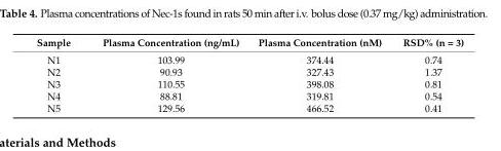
<table><thead><tr><td>Sample</td><td>Plasma Concentration (ng/mL)</td><td>Plasma Concentration (nM)</td><td>RSD% (n = 3)</td></tr></thead><tbody><tr><td>N1</td><td>103.99</td><td>374.44</td><td>0.74</td></tr><tr><td>N2</td><td>90.93</td><td>327.43</td><td>1.37</td></tr><tr><td>N3</td><td>110.55</td><td>398.08</td><td>0.81</td></tr><tr><td>N4</td><td>88.81</td><td>319.81</td><td>0.54</td></tr><tr><td>N5</td><td>129.56</td><td>466.52</td><td>0.41</td></tr></tbody></table>